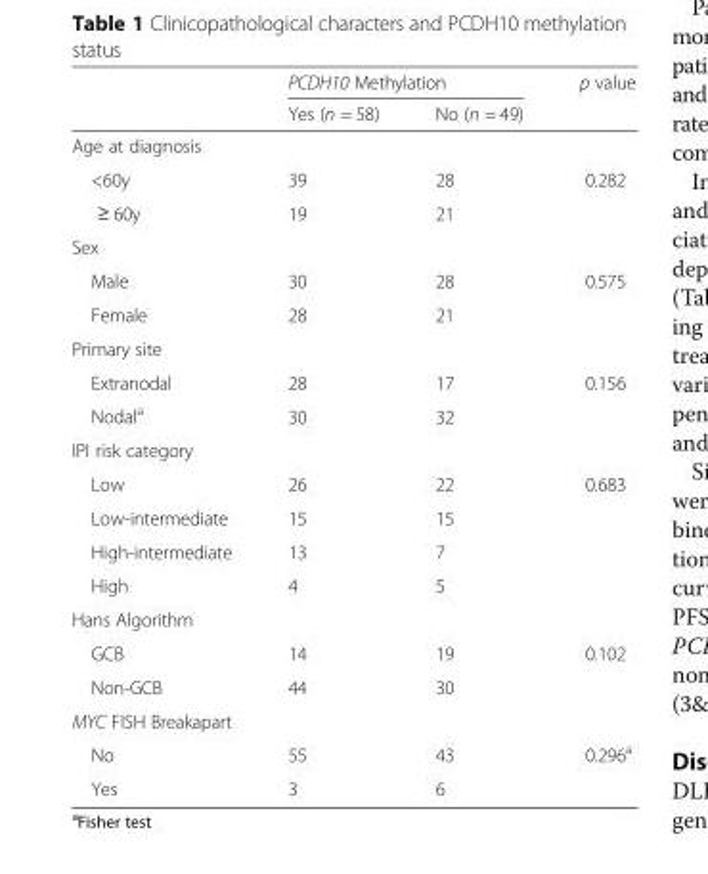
<table><thead><tr><td rowspan="2"></td><td colspan="2">PCDH10 Methylation</td><td rowspan="2">p value</td></tr><tr><td>Yes (n = 58)</td><td>No (n = 49)</td></tr></thead><tbody><tr><td colspan="4">Age at diagnosis</td></tr><tr><td>&lt;60y</td><td>39</td><td>28</td><td rowspan="2">0.282</td></tr><tr><td>≥ 60y</td><td>19</td><td>21</td></tr><tr><td colspan="4">Sex</td></tr><tr><td>Male</td><td>30</td><td>28</td><td rowspan="2">0.575</td></tr><tr><td>Female</td><td>28</td><td>21</td></tr><tr><td colspan="4">Primary site</td></tr><tr><td>Extranodal</td><td>28</td><td>17</td><td rowspan="2">0.156</td></tr><tr><td>Nodal<sup>a</sup></td><td>30</td><td>32</td></tr><tr><td colspan="4">IPI risk category</td></tr><tr><td>Low</td><td>26</td><td>22</td><td rowspan="3">0.683</td></tr><tr><td>Low-intermediate</td><td>15</td><td>15</td></tr><tr><td>High-intermediate</td><td>13</td><td>7</td></tr><tr><td>High</td><td>4</td><td>5</td><td></td></tr><tr><td colspan="4">Hans Algorithm</td></tr><tr><td>GCB</td><td>14</td><td>19</td><td rowspan="2">0.102</td></tr><tr><td>Non-GCB</td><td>44</td><td>30</td></tr><tr><td colspan="4">MYC FISH Breakapart</td></tr><tr><td>No</td><td>55</td><td>43</td><td rowspan="2">0.296<sup>a</sup></td></tr><tr><td>Yes</td><td>3</td><td>6</td></tr></tbody></table>